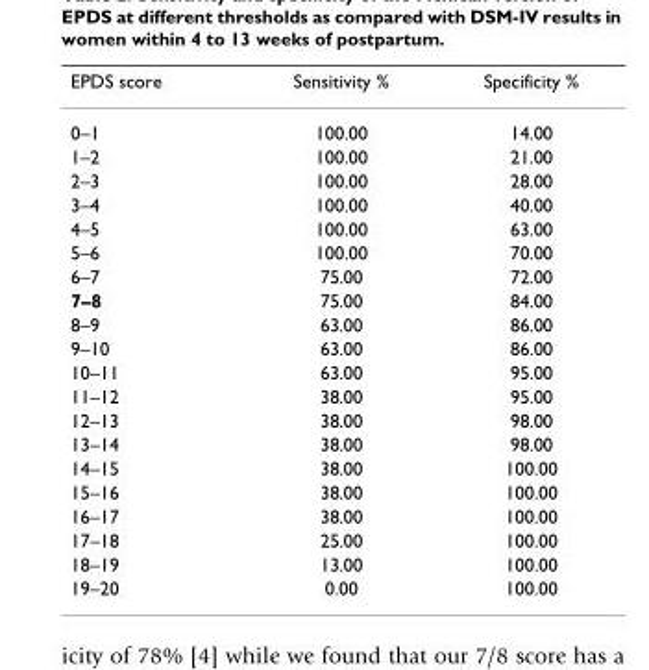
<table><thead><tr><td>EPDS score</td><td>Sensitivity %</td><td>Specificity %</td></tr></thead><tbody><tr><td>0–1</td><td>100.00</td><td>14.00</td></tr><tr><td>1–2</td><td>100.00</td><td>21.00</td></tr><tr><td>2–3</td><td>100.00</td><td>28.00</td></tr><tr><td>3–4</td><td>100.00</td><td>40.00</td></tr><tr><td>4–5</td><td>100.00</td><td>63.00</td></tr><tr><td>5–6</td><td>100.00</td><td>70.00</td></tr><tr><td>6–7</td><td>75.00</td><td>72.00</td></tr><tr><td>7–8</td><td>75.00</td><td>84.00</td></tr><tr><td>8–9</td><td>63.00</td><td>86.00</td></tr><tr><td>9–10</td><td>63.00</td><td>86.00</td></tr><tr><td>10–11</td><td>63.00</td><td>95.00</td></tr><tr><td>11–12</td><td>38.00</td><td>95.00</td></tr><tr><td>12–13</td><td>38.00</td><td>98.00</td></tr><tr><td>13–14</td><td>38.00</td><td>98.00</td></tr><tr><td>14–15</td><td>38.00</td><td>100.00</td></tr><tr><td>15–16</td><td>38.00</td><td>100.00</td></tr><tr><td>16–17</td><td>38.00</td><td>100.00</td></tr><tr><td>17–18</td><td>25.00</td><td>100.00</td></tr><tr><td>18–19</td><td>13.00</td><td>100.00</td></tr><tr><td>19–20</td><td>0.00</td><td>100.00</td></tr></tbody></table>